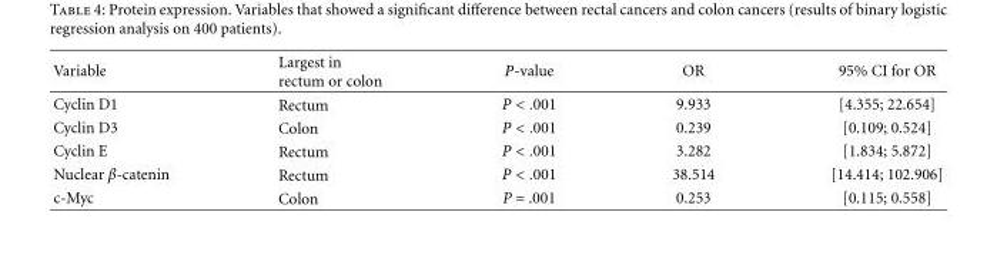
<table><thead><tr><td>Variable</td><td>Largest in rectum or colon</td><td>P-value</td><td>OR</td><td>95% CI for OR</td></tr></thead><tbody><tr><td>Cyclin D1</td><td>Rectum</td><td>P &lt; .001</td><td>9.933</td><td>[4.355; 22.654]</td></tr><tr><td>Cyclin D3</td><td>Colon</td><td>P &lt; .001</td><td>0.239</td><td>[0.109; 0.524]</td></tr><tr><td>Cyclin E</td><td>Rectum</td><td>P &lt; .001</td><td>3.282</td><td>[1.834; 5.872]</td></tr><tr><td>Nuclear β-catenin</td><td>Rectum</td><td>P &lt; .001</td><td>38.514</td><td>[14.414; 102.906]</td></tr><tr><td>c-Myc</td><td>Colon</td><td>P = .001</td><td>0.253</td><td>[0.115; 0.558]</td></tr></tbody></table>